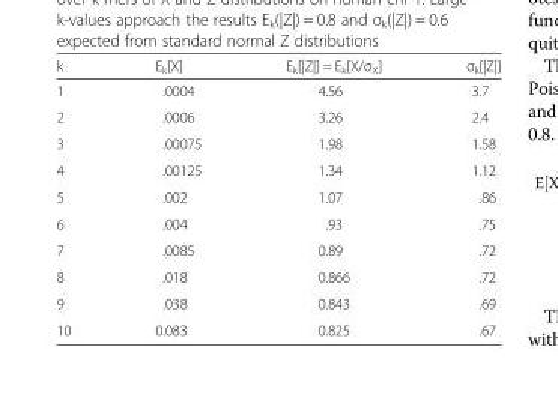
<table><thead><tr><td>k</td><td>E<sub>k</sub>[X]</td><td>E<sub>k</sub>[|Z|] = E<sub>k</sub>[X/σ<sub>X</sub>]</td><td>σ<sub>k</sub>[|Z|]</td></tr></thead><tbody><tr><td>1</td><td>.0004</td><td>4.56</td><td>3.7</td></tr><tr><td>2</td><td>.0006</td><td>3.26</td><td>2.4</td></tr><tr><td>3</td><td>.00075</td><td>1.98</td><td>1.58</td></tr><tr><td>4</td><td>.00125</td><td>1.34</td><td>1.12</td></tr><tr><td>5</td><td>.002</td><td>1.07</td><td>.86</td></tr><tr><td>6</td><td>.004</td><td>.93</td><td>.75</td></tr><tr><td>7</td><td>.0085</td><td>0.89</td><td>.72</td></tr><tr><td>8</td><td>.018</td><td>0.866</td><td>.72</td></tr><tr><td>9</td><td>.038</td><td>0.843</td><td>.69</td></tr><tr><td>10</td><td>0.083</td><td>0.825</td><td>.67</td></tr></tbody></table>